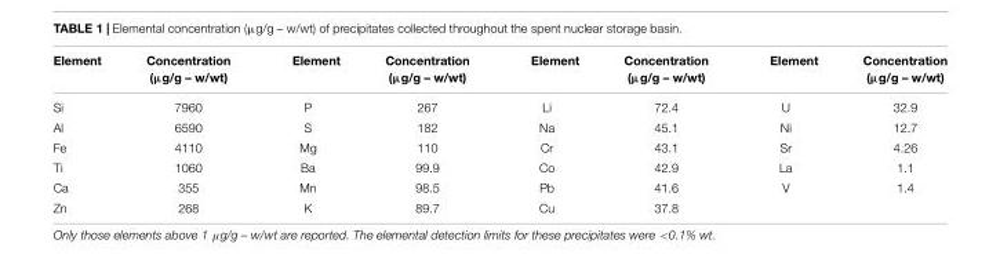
<table><thead><tr><td>Element</td><td>Concentration (µg/g – w/wt)</td><td>Element</td><td>Concentration (µg/g – w/wt)</td><td>Element</td><td>Concentration (µg/g – w/wt)</td><td>Element</td><td>Concentration (µg/g – w/wt)</td></tr></thead><tbody><tr><td>Si</td><td>7960</td><td>P</td><td>267</td><td>Li</td><td>72.4</td><td>U</td><td>32.9</td></tr><tr><td>Al</td><td>6590</td><td>S</td><td>182</td><td>Na</td><td>45.1</td><td>Ni</td><td>12.7</td></tr><tr><td>Fe</td><td>4110</td><td>Mg</td><td>110</td><td>Cr</td><td>43.1</td><td>Sr</td><td>4.26</td></tr><tr><td>Ti</td><td>1060</td><td>Ba</td><td>99.9</td><td>Co</td><td>42.9</td><td>La</td><td>1.1</td></tr><tr><td>Ca</td><td>355</td><td>Mn</td><td>98.5</td><td>Pb</td><td>41.6</td><td>V</td><td>1.4</td></tr><tr><td>Zn</td><td>268</td><td>K</td><td>89.7</td><td>Cu</td><td>37.8</td><td></td><td></td></tr></tbody></table>